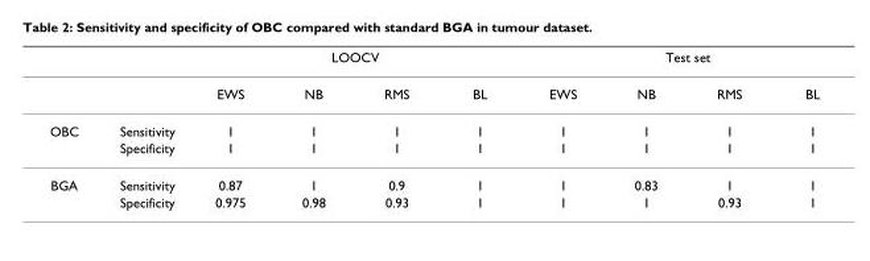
<table><thead><tr><td rowspan="2"></td><td rowspan="2"></td><td colspan="4">LOOCV</td><td colspan="4">Test set</td></tr><tr><td>EWS</td><td>NB</td><td>RMS</td><td>BL</td><td>EWS</td><td>NB</td><td>RMS</td><td>BL</td></tr></thead><tbody><tr><td rowspan="2">OBC</td><td>Sensitivity</td><td>1</td><td>1</td><td>1</td><td>1</td><td>1</td><td>1</td><td>1</td><td>1</td></tr><tr><td>Specificity</td><td>1</td><td>1</td><td>1</td><td>1</td><td>1</td><td>1</td><td>1</td><td>1</td></tr><tr><td rowspan="2">BGA</td><td>Sensitivity</td><td>0.87</td><td>1</td><td>0.9</td><td>1</td><td>1</td><td>0.83</td><td>1</td><td>1</td></tr><tr><td>Specificity</td><td>0.975</td><td>0.98</td><td>0.93</td><td>1</td><td>1</td><td>1</td><td>0.93</td><td>1</td></tr></tbody></table>